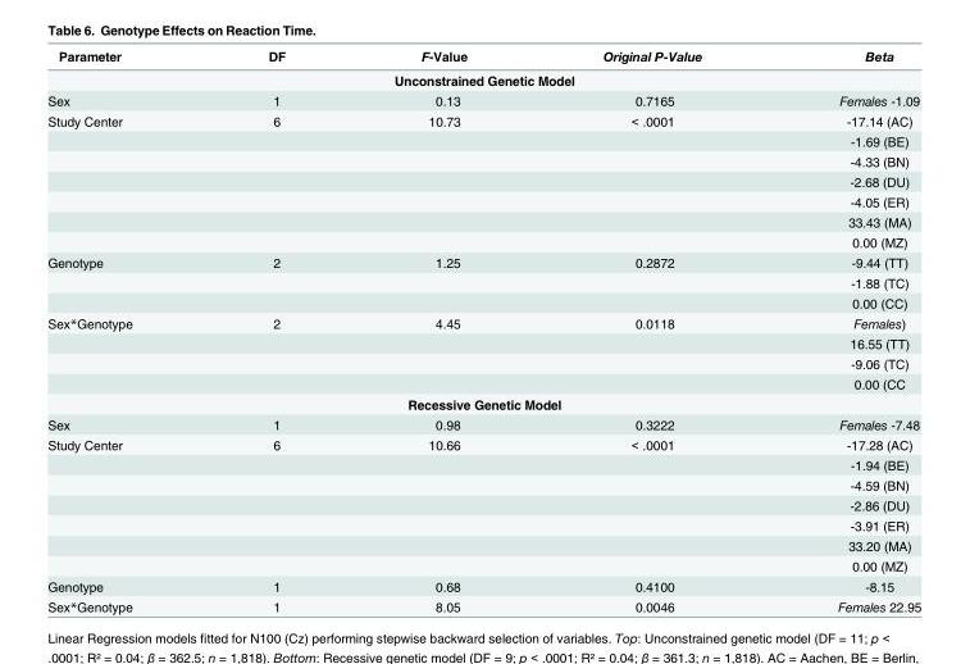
<table><thead><tr><td>Parameter</td><td>DF</td><td>F-Value</td><td>Original P-Value</td><td>Beta</td></tr></thead><tbody><tr><td colspan="5">Unconstrained Genetic Model</td></tr><tr><td>Sex</td><td>1</td><td>0.13</td><td>0.7165</td><td>Females -1.09</td></tr><tr><td rowspan="7">Study Center</td><td>6</td><td>10.73</td><td>&lt; .0001</td><td>-17.14 (AC)</td></tr><tr><td></td><td></td><td></td><td>-1.69 (BE)</td></tr><tr><td></td><td></td><td></td><td>-4.33 (BN)</td></tr><tr><td></td><td></td><td></td><td>-2.68 (DU)</td></tr><tr><td></td><td></td><td></td><td>-4.05 (ER)</td></tr><tr><td></td><td></td><td></td><td>33.43 (MA)</td></tr><tr><td></td><td></td><td></td><td>0.00 (MZ)</td></tr><tr><td rowspan="3">Genotype</td><td>2</td><td>1.25</td><td>0.2872</td><td>-9.44 (TT)</td></tr><tr><td></td><td></td><td></td><td>-1.88 (TC)</td></tr><tr><td></td><td></td><td></td><td>0.00 (CC)</td></tr><tr><td rowspan="4">Sex*Genotype</td><td>2</td><td>4.45</td><td>0.0118</td><td>Females)</td></tr><tr><td></td><td></td><td></td><td>16.55 (TT)</td></tr><tr><td></td><td></td><td></td><td>-9.06 (TC)</td></tr><tr><td></td><td></td><td></td><td>0.00 (CC</td></tr><tr><td colspan="5">Recessive Genetic Model</td></tr><tr><td>Sex</td><td>1</td><td>0.98</td><td>0.3222</td><td>Females -7.48</td></tr><tr><td rowspan="7">Study Center</td><td>6</td><td>10.66</td><td>&lt; .0001</td><td>-17.28 (AC)</td></tr><tr><td></td><td></td><td></td><td>-1.94 (BE)</td></tr><tr><td></td><td></td><td></td><td>-4.59 (BN)</td></tr><tr><td></td><td></td><td></td><td>-2.86 (DU)</td></tr><tr><td></td><td></td><td></td><td>-3.91 (ER)</td></tr><tr><td></td><td></td><td></td><td>33.20 (MA)</td></tr><tr><td></td><td></td><td></td><td>0.00 (MZ)</td></tr><tr><td>Genotype</td><td>1</td><td>0.68</td><td>0.4100</td><td>-8.15</td></tr><tr><td>Sex*Genotype</td><td>1</td><td>8.05</td><td>0.0046</td><td>Females 22.95</td></tr></tbody></table>